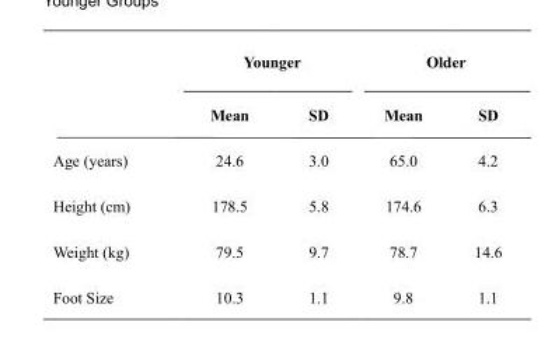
<table><thead><tr><td rowspan="2"></td><td colspan="2">Younger</td><td colspan="2">Older</td></tr><tr><td>Mean</td><td>SD</td><td>Mean</td><td>SD</td></tr></thead><tbody><tr><td>Age (years)</td><td>24.6</td><td>3.0</td><td>65.0</td><td>4.2</td></tr><tr><td>Height (cm)</td><td>178.5</td><td>5.8</td><td>174.6</td><td>6.3</td></tr><tr><td>Weight (kg)</td><td>79.5</td><td>9.7</td><td>78.7</td><td>14.6</td></tr><tr><td>Foot Size</td><td>10.3</td><td>1.1</td><td>9.8</td><td>1.1</td></tr></tbody></table>